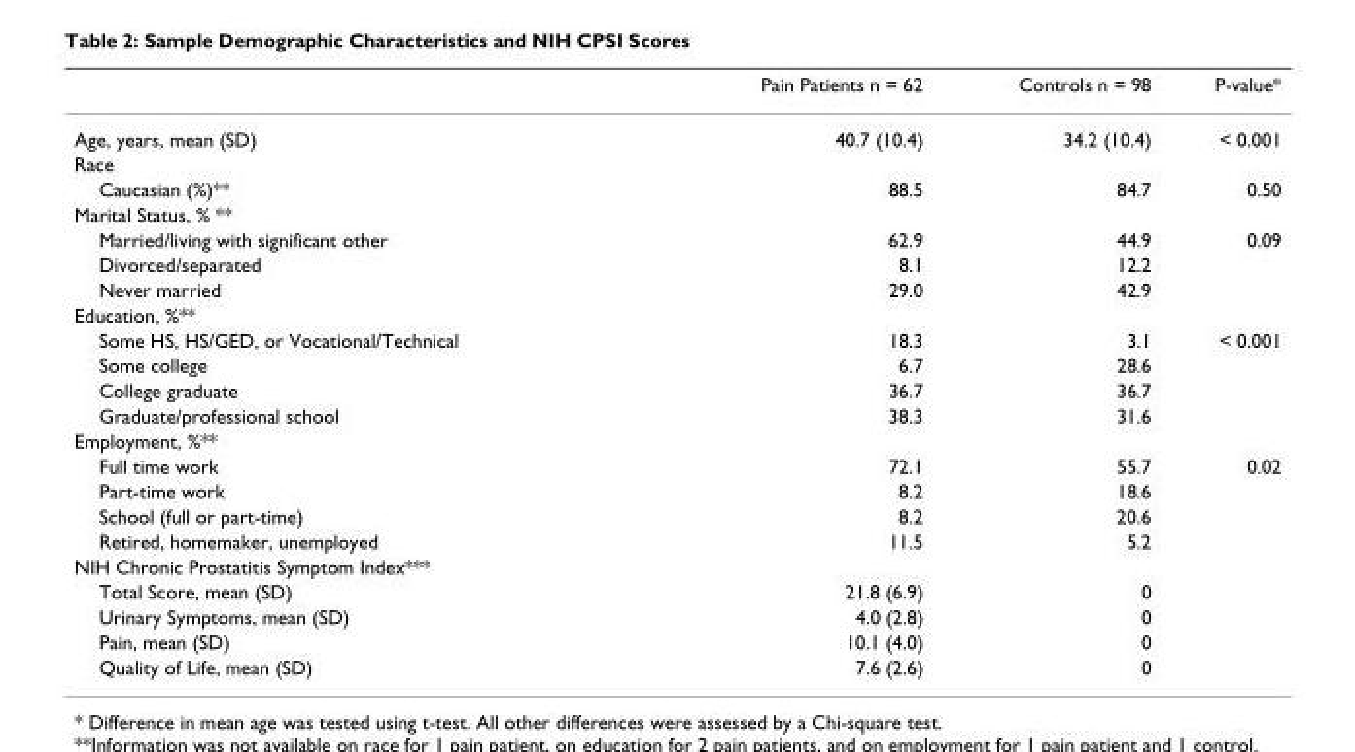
<table><thead><tr><td></td><td>Pain Patients n = 62</td><td>Controls n = 98</td><td>P-value*</td></tr></thead><tbody><tr><td>Age, years, mean (SD)</td><td>40.7 (10.4)</td><td>34.2 (10.4)</td><td>&lt; 0.001</td></tr><tr><td colspan="4">Race</td></tr><tr><td>Caucasian (%)**</td><td>88.5</td><td>84.7</td><td>0.50</td></tr><tr><td colspan="4">Marital Status, % **</td></tr><tr><td>Married/living with significant other</td><td>62.9</td><td>44.9</td><td>0.09</td></tr><tr><td>Divorced/separated</td><td>8.1</td><td>12.2</td><td></td></tr><tr><td>Never married</td><td>29.0</td><td>42.9</td><td></td></tr><tr><td colspan="4">Education, %**</td></tr><tr><td>Some HS, HS/GED, or Vocational/Technical</td><td>18.3</td><td>3.1</td><td>&lt; 0.001</td></tr><tr><td>Some college</td><td>6.7</td><td>28.6</td><td></td></tr><tr><td>College graduate</td><td>36.7</td><td>36.7</td><td></td></tr><tr><td>Graduate/professional school</td><td>38.3</td><td>31.6</td><td></td></tr><tr><td colspan="4">Employment, %**</td></tr><tr><td>Full time work</td><td>72.1</td><td>55.7</td><td>0.02</td></tr><tr><td>Part-time work</td><td>8.2</td><td>18.6</td><td></td></tr><tr><td>School (full or part-time)</td><td>8.2</td><td>20.6</td><td></td></tr><tr><td>Retired, homemaker, unemployed</td><td>11.5</td><td>5.2</td><td></td></tr><tr><td colspan="4">NIH Chronic Prostatitis Symptom Index***</td></tr><tr><td>Total Score, mean (SD)</td><td>21.8 (6.9)</td><td>0</td><td></td></tr><tr><td>Urinary Symptoms, mean (SD)</td><td>4.0 (2.8)</td><td>0</td><td></td></tr><tr><td>Pain, mean (SD)</td><td>10.1 (4.0)</td><td>0</td><td></td></tr><tr><td>Quality of Life, mean (SD)</td><td>7.6 (2.6)</td><td>0</td><td></td></tr></tbody></table>